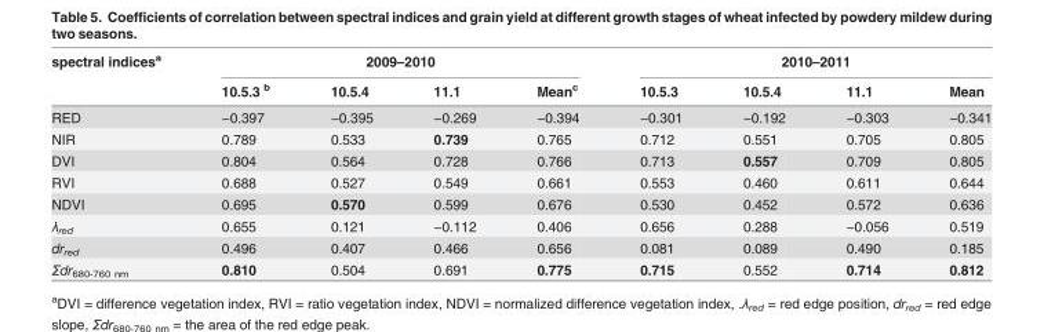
<table><thead><tr><td rowspan="2">spectral indices<sup>a</sup></td><td colspan="4">2009–2010</td><td colspan="4">2010–2011</td></tr><tr><td>10.5.3 <sup>b</sup></td><td>10.5.4</td><td>11.1</td><td>Mean<sup>c</sup></td><td>10.5.3</td><td>10.5.4</td><td>11.1</td><td>Mean</td></tr></thead><tbody><tr><td>RED</td><td>−0.397</td><td>−0.395</td><td>−0.269</td><td>−0.394</td><td>−0.301</td><td>−0.192</td><td>−0.303</td><td>−0.341</td></tr><tr><td>NIR</td><td>0.789</td><td>0.533</td><td>0.739</td><td>0.765</td><td>0.712</td><td>0.551</td><td>0.705</td><td>0.805</td></tr><tr><td>DVI</td><td>0.804</td><td>0.564</td><td>0.728</td><td>0.766</td><td>0.713</td><td>0.557</td><td>0.709</td><td>0.805</td></tr><tr><td>RVI</td><td>0.688</td><td>0.527</td><td>0.549</td><td>0.661</td><td>0.553</td><td>0.460</td><td>0.611</td><td>0.644</td></tr><tr><td>NDVI</td><td>0.695</td><td>0.570</td><td>0.599</td><td>0.676</td><td>0.530</td><td>0.452</td><td>0.572</td><td>0.636</td></tr><tr><td>λ<sub>red</sub></td><td>0.655</td><td>0.121</td><td>−0.112</td><td>0.406</td><td>0.656</td><td>0.288</td><td>−0.056</td><td>0.519</td></tr><tr><td>dr<sub>red</sub></td><td>0.496</td><td>0.407</td><td>0.466</td><td>0.656</td><td>0.081</td><td>0.089</td><td>0.490</td><td>0.185</td></tr><tr><td>Σdr<sub>680-760 nm</sub></td><td>0.810</td><td>0.504</td><td>0.691</td><td>0.775</td><td>0.715</td><td>0.552</td><td>0.714</td><td>0.812</td></tr></tbody></table>